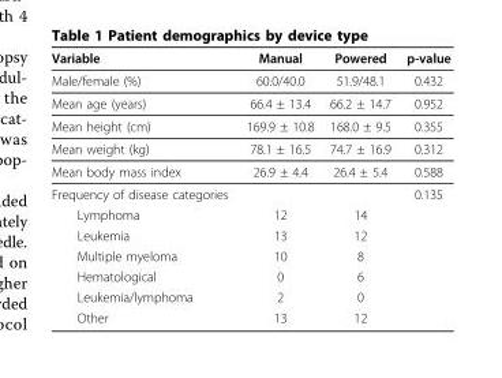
<table><thead><tr><td>Variable</td><td>Manual</td><td>Powered</td><td>p-value</td></tr></thead><tbody><tr><td>Male/female (%)</td><td>60.0/40.0</td><td>51.9/48.1</td><td>0.432</td></tr><tr><td>Mean age (years)</td><td>66.4 ± 13.4</td><td>66.2 ± 14.7</td><td>0.952</td></tr><tr><td>Mean height (cm)</td><td>169.9 ± 10.8</td><td>168.0 ± 9.5</td><td>0.355</td></tr><tr><td>Mean weight (kg)</td><td>78.1 ± 16.5</td><td>74.7 ± 16.9</td><td>0.312</td></tr><tr><td>Mean body mass index</td><td>26.9 ± 4.4</td><td>26.4 ± 5.4</td><td>0.588</td></tr><tr><td>Frequency of disease categories</td><td></td><td></td><td>0.135</td></tr><tr><td>Lymphoma</td><td>12</td><td>14</td><td></td></tr><tr><td>Leukemia</td><td>13</td><td>12</td><td></td></tr><tr><td>Multiple myeloma</td><td>10</td><td>8</td><td></td></tr><tr><td>Hematological</td><td>0</td><td>6</td><td></td></tr><tr><td>Leukemia/lymphoma</td><td>2</td><td>0</td><td></td></tr><tr><td>Other</td><td>13</td><td>12</td><td></td></tr></tbody></table>